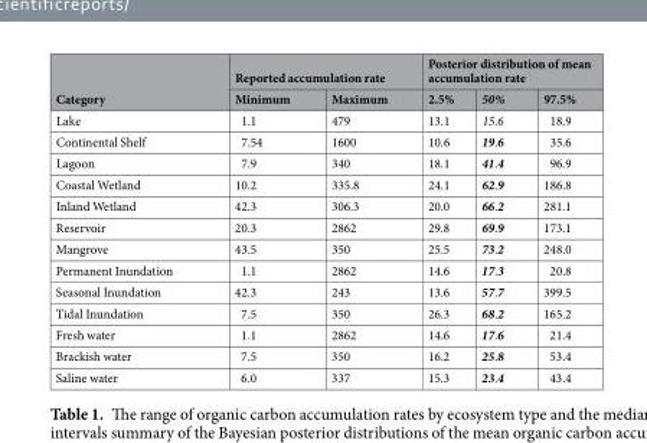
<table><thead><tr><td rowspan="2">Category</td><td colspan="2">Reported accumulation rate</td><td colspan="3">Posterior distribution of mean accumulation rate</td></tr><tr><td>Minimum</td><td>Maximum</td><td>2.5%</td><td>50%</td><td>97.5%</td></tr></thead><tbody><tr><td>Lake</td><td>1.1</td><td>479</td><td>13.1</td><td>15.6</td><td>18.9</td></tr><tr><td>Continental Shelf</td><td>7.54</td><td>1600</td><td>10.6</td><td>19.6</td><td>35.6</td></tr><tr><td>Lagoon</td><td>7.9</td><td>340</td><td>18.1</td><td>41.4</td><td>96.9</td></tr><tr><td>Coastal Wetland</td><td>10.2</td><td>335.8</td><td>24.1</td><td>62.9</td><td>186.8</td></tr><tr><td>Inland Wetland</td><td>42.3</td><td>306.3</td><td>20.0</td><td>66.2</td><td>281.1</td></tr><tr><td>Reservoir</td><td>20.3</td><td>2862</td><td>29.8</td><td>69.9</td><td>173.1</td></tr><tr><td>Mangrove</td><td>43.5</td><td>350</td><td>25.5</td><td>73.2</td><td>248.0</td></tr><tr><td>Permanent Inundation</td><td>1.1</td><td>2862</td><td>14.6</td><td>17.3</td><td>20.8</td></tr><tr><td>Seasonal Inundation</td><td>42.3</td><td>243</td><td>13.6</td><td>57.7</td><td>399.5</td></tr><tr><td>Tidal Inundation</td><td>7.5</td><td>350</td><td>26.3</td><td>68.2</td><td>165.2</td></tr><tr><td>Fresh water</td><td>1.1</td><td>2862</td><td>14.6</td><td>17.6</td><td>21.4</td></tr><tr><td>Brackish water</td><td>7.5</td><td>350</td><td>16.2</td><td>25.8</td><td>53.4</td></tr><tr><td>Saline water</td><td>6.0</td><td>337</td><td>15.3</td><td>23.4</td><td>43.4</td></tr></tbody></table>